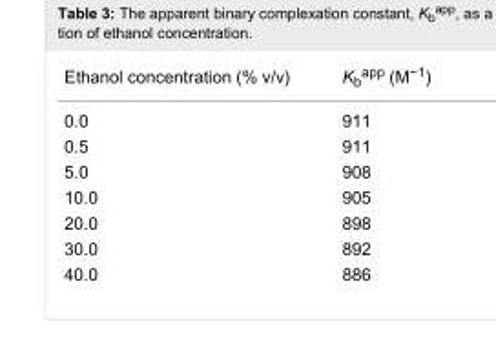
<table><tbody><tr><td>Ethanol concentration (% v/v)</td><td>K<sub>b</sub><sup>app</sup> (M<sup>−1</sup>)</td></tr><tr><td>0.0</td><td>911</td></tr><tr><td>0.5</td><td>911</td></tr><tr><td>5.0</td><td>908</td></tr><tr><td>10.0</td><td>905</td></tr><tr><td>20.0</td><td>898</td></tr><tr><td>30.0</td><td>892</td></tr><tr><td>40.0</td><td>886</td></tr></tbody></table>